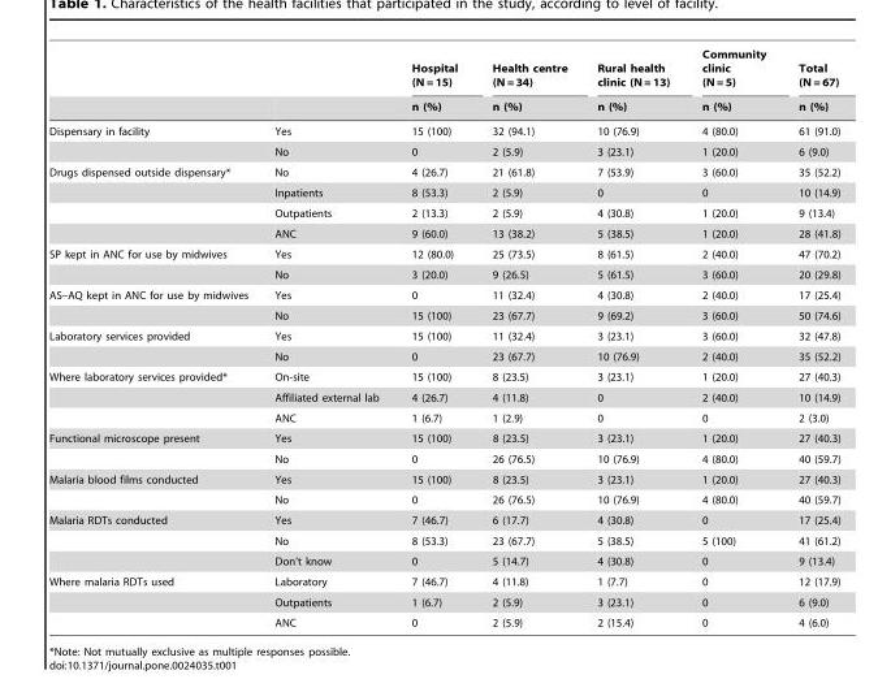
<table><thead><tr><td rowspan="2"></td><td rowspan="2"></td><td rowspan="2">Hospital (N = 15) n (%)</td><td rowspan="2">Health centre (N = 34) n (%)</td><td rowspan="2">Rural health clinic (N = 13) n (%)</td><td rowspan="2">Community clinic (N = 5) n (%)</td><td rowspan="2">Total (N = 67) n (%)</td></tr><tr></tr></thead><tbody><tr><td rowspan="2">Dispensary in facility</td><td>Yes</td><td>15 (100)</td><td>32 (94.1)</td><td>10 (76.9)</td><td>4 (80.0)</td><td>61 (91.0)</td></tr><tr><td>No</td><td>0</td><td>2 (5.9)</td><td>3 (23.1)</td><td>1 (20.0)</td><td>6 (9.0)</td></tr><tr><td rowspan="4">Drugs dispensed outside dispensary*</td><td>No</td><td>4 (26.7)</td><td>21 (61.8)</td><td>7 (53.9)</td><td>3 (60.0)</td><td>35 (52.2)</td></tr><tr><td>Inpatients</td><td>8 (53.3)</td><td>2 (5.9)</td><td>0</td><td>0</td><td>10 (14.9)</td></tr><tr><td>Outpatients</td><td>2 (13.3)</td><td>2 (5.9)</td><td>4 (30.8)</td><td>1 (20.0)</td><td>9 (13.4)</td></tr><tr><td>ANC</td><td>9 (60.0)</td><td>13 (38.2)</td><td>5 (38.5)</td><td>1 (20.0)</td><td>28 (41.8)</td></tr><tr><td rowspan="2">SP kept in ANC for use by midwives</td><td>Yes</td><td>12 (80.0)</td><td>25 (73.5)</td><td>8 (61.5)</td><td>2 (40.0)</td><td>47 (70.2)</td></tr><tr><td>No</td><td>3 (20.0)</td><td>9 (26.5)</td><td>5 (61.5)</td><td>3 (60.0)</td><td>20 (29.8)</td></tr><tr><td rowspan="2">AS–AQ kept in ANC for use by midwives</td><td>Yes</td><td>0</td><td>11 (32.4)</td><td>4 (30.8)</td><td>2 (40.0)</td><td>17 (25.4)</td></tr><tr><td>No</td><td>15 (100)</td><td>23 (67.7)</td><td>9 (69.2)</td><td>3 (60.0)</td><td>50 (74.6)</td></tr><tr><td rowspan="2">Laboratory services provided</td><td>Yes</td><td>15 (100)</td><td>11 (32.4)</td><td>3 (23.1)</td><td>3 (60.0)</td><td>32 (47.8)</td></tr><tr><td>No</td><td>0</td><td>23 (67.7)</td><td>10 (76.9)</td><td>2 (40.0)</td><td>35 (52.2)</td></tr><tr><td rowspan="3">Where laboratory services provided*</td><td>On-site</td><td>15 (100)</td><td>8 (23.5)</td><td>3 (23.1)</td><td>1 (20.0)</td><td>27 (40.3)</td></tr><tr><td>Affiliated external lab</td><td>4 (26.7)</td><td>4 (11.8)</td><td>0</td><td>2 (40.0)</td><td>10 (14.9)</td></tr><tr><td>ANC</td><td>1 (6.7)</td><td>1 (2.9)</td><td>0</td><td>0</td><td>2 (3.0)</td></tr><tr><td rowspan="2">Functional microscope present</td><td>Yes</td><td>15 (100)</td><td>8 (23.5)</td><td>3 (23.1)</td><td>1 (20.0)</td><td>27 (40.3)</td></tr><tr><td>No</td><td>0</td><td>26 (76.5)</td><td>10 (76.9)</td><td>4 (80.0)</td><td>40 (59.7)</td></tr><tr><td rowspan="2">Malaria blood films conducted</td><td>Yes</td><td>15 (100)</td><td>8 (23.5)</td><td>3 (23.1)</td><td>1 (20.0)</td><td>27 (40.3)</td></tr><tr><td>No</td><td>0</td><td>26 (76.5)</td><td>10 (76.9)</td><td>4 (80.0)</td><td>40 (59.7)</td></tr><tr><td rowspan="3">Malaria RDTs conducted</td><td>Yes</td><td>7 (46.7)</td><td>6 (17.7)</td><td>4 (30.8)</td><td>0</td><td>17 (25.4)</td></tr><tr><td>No</td><td>8 (53.3)</td><td>23 (67.7)</td><td>5 (38.5)</td><td>5 (100)</td><td>41 (61.2)</td></tr><tr><td>Don’t know</td><td>0</td><td>5 (14.7)</td><td>4 (30.8)</td><td>0</td><td>9 (13.4)</td></tr><tr><td rowspan="3">Where malaria RDTs used</td><td>Laboratory</td><td>7 (46.7)</td><td>4 (11.8)</td><td>1 (7.7)</td><td>0</td><td>12 (17.9)</td></tr><tr><td>Outpatients</td><td>1 (6.7)</td><td>2 (5.9)</td><td>3 (23.1)</td><td>0</td><td>6 (9.0)</td></tr><tr><td>ANC</td><td>0</td><td>2 (5.9)</td><td>2 (15.4)</td><td>0</td><td>4 (6.0)</td></tr></tbody></table>